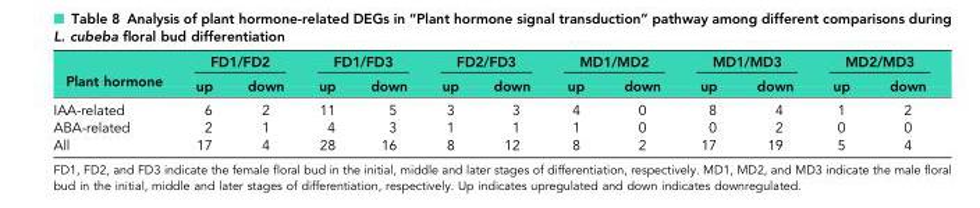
<table><thead><tr><td rowspan="2">Plant hormone</td><td colspan="2">FD1/FD2</td><td colspan="2">FD1/FD3</td><td colspan="2">FD2/FD3</td><td colspan="2">MD1/MD2</td><td colspan="2">MD1/MD3</td><td colspan="2">MD2/MD3</td></tr><tr><td>up</td><td>down</td><td>up</td><td>down</td><td>up</td><td>down</td><td>up</td><td>down</td><td>up</td><td>down</td><td>up</td><td>down</td></tr></thead><tbody><tr><td>IAA-related</td><td>6</td><td>2</td><td>11</td><td>5</td><td>3</td><td>3</td><td>4</td><td>0</td><td>8</td><td>4</td><td>1</td><td>2</td></tr><tr><td>ABA-related</td><td>2</td><td>1</td><td>4</td><td>3</td><td>1</td><td>1</td><td>1</td><td>0</td><td>0</td><td>2</td><td>0</td><td>0</td></tr><tr><td>All</td><td>17</td><td>4</td><td>28</td><td>16</td><td>8</td><td>12</td><td>8</td><td>2</td><td>17</td><td>19</td><td>5</td><td>4</td></tr></tbody></table>